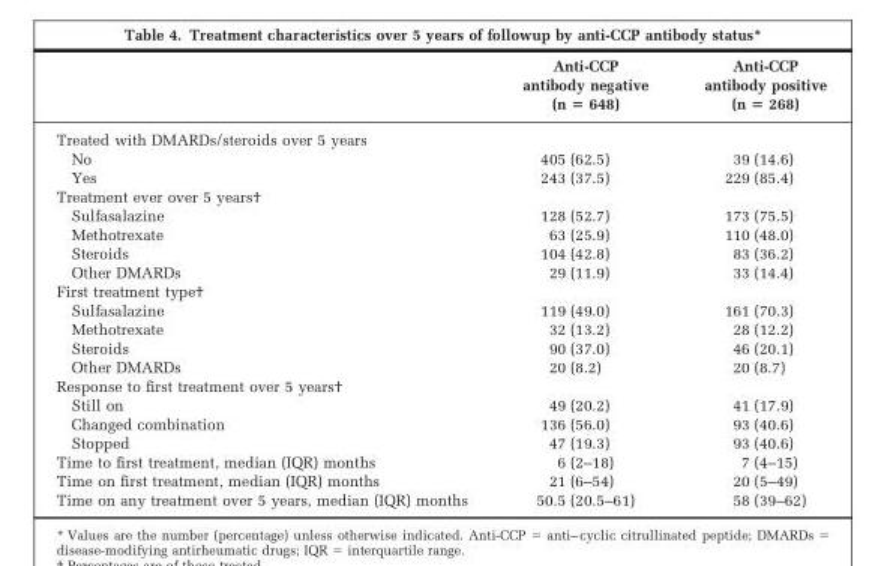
<table><thead><tr><td></td><td>Anti-CCP antibody negative (n = 648)</td><td>Anti-CCP antibody positive (n = 268)</td></tr></thead><tbody><tr><td colspan="3">Treated with DMARDs/steroids over 5 years</td></tr><tr><td>No</td><td>405 (62.5)</td><td>39 (14.6)</td></tr><tr><td>Yes</td><td>243 (37.5)</td><td>229 (85.4)</td></tr><tr><td colspan="3">Treatment ever over 5 years†</td></tr><tr><td>Sulfasalazine</td><td>128 (52.7)</td><td>173 (75.5)</td></tr><tr><td>Methotrexate</td><td>63 (25.9)</td><td>110 (48.0)</td></tr><tr><td>Steroids</td><td>104 (42.8)</td><td>83 (36.2)</td></tr><tr><td>Other DMARDs</td><td>29 (11.9)</td><td>33 (14.4)</td></tr><tr><td colspan="3">First treatment type†</td></tr><tr><td>Sulfasalazine</td><td>119 (49.0)</td><td>161 (70.3)</td></tr><tr><td>Methotrexate</td><td>32 (13.2)</td><td>28 (12.2)</td></tr><tr><td>Steroids</td><td>90 (37.0)</td><td>46 (20.1)</td></tr><tr><td>Other DMARDs</td><td>20 (8.2)</td><td>20 (8.7)</td></tr><tr><td colspan="3">Response to first treatment over 5 years†</td></tr><tr><td>Still on</td><td>49 (20.2)</td><td>41 (17.9)</td></tr><tr><td>Changed combination</td><td>136 (56.0)</td><td>93 (40.6)</td></tr><tr><td>Stopped</td><td>47 (19.3)</td><td>93 (40.6)</td></tr><tr><td>Time to first treatment, median (IQR) months</td><td>6 (2–18)</td><td>7 (4–15)</td></tr><tr><td>Time on first treatment, median (IQR) months</td><td>21 (6–54)</td><td>20 (5–49)</td></tr><tr><td>Time on any treatment over 5 years, median (IQR) months</td><td>50.5 (20.5–61)</td><td>58 (39–62)</td></tr></tbody></table>